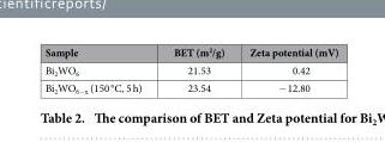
<table><thead><tr><td>Sample</td><td>BET (m<sup>2</sup>/g)</td><td>Zeta potential (mV)</td></tr></thead><tbody><tr><td>Bi<sub>2</sub>WO<sub>6</sub></td><td>21.53</td><td>0.42</td></tr><tr><td>Bi<sub>2</sub>WO<sub>6−x</sub> (150 °C, 5 h)</td><td>23.54</td><td>− 12.80</td></tr></tbody></table>